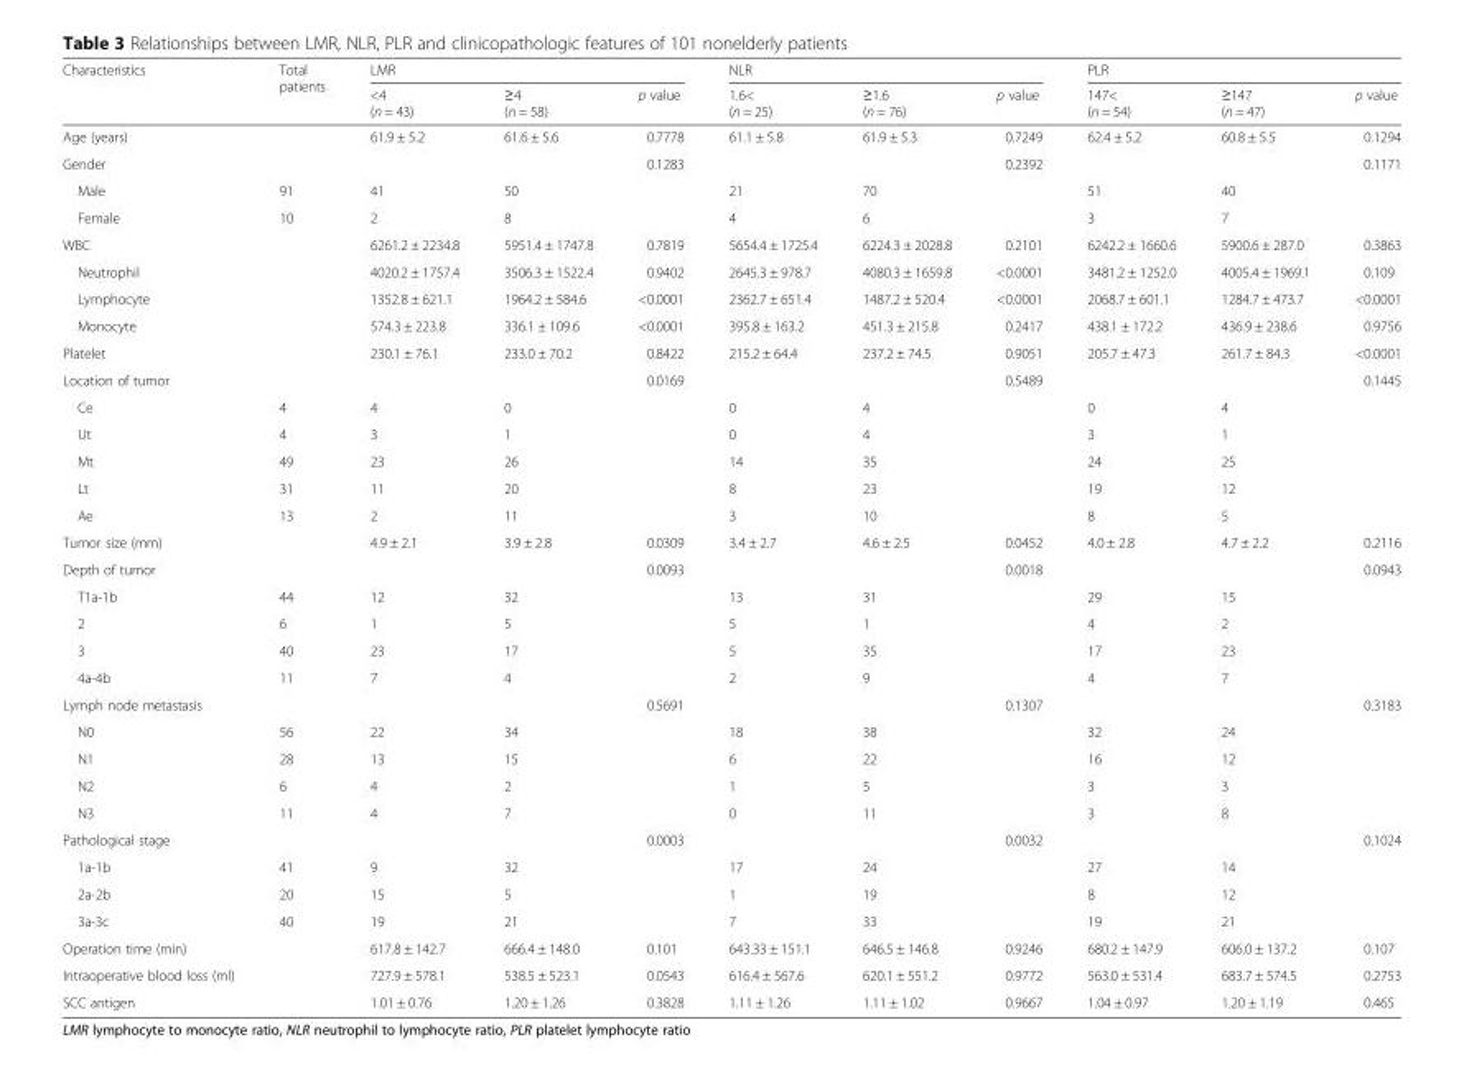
<table><thead><tr><td rowspan="2">Characteristics</td><td rowspan="2">Total patients</td><td colspan="3">LMR</td><td colspan="3">NLR</td><td colspan="3">PLR</td></tr><tr><td>&lt;4 (n = 43)</td><td>≥4 (n = 58)</td><td>p value</td><td>1.6&lt; (n = 25)</td><td>≥1.6 (n = 76)</td><td>p value</td><td>147&lt; (n = 54)</td><td>≥147 (n = 47)</td><td>p value</td></tr></thead><tbody><tr><td>Age (years)</td><td></td><td>61.9 ± 5.2</td><td>61.6 ± 5.6</td><td>0.7778</td><td>61.1 ± 5.8</td><td>61.9 ± 5.3</td><td>0.7249</td><td>62.4 ± 5.2</td><td>60.8 ± 5.5</td><td>0.1294</td></tr><tr><td>Gender</td><td></td><td></td><td></td><td>0.1283</td><td></td><td></td><td>0.2392</td><td></td><td></td><td>0.1171</td></tr><tr><td>Male</td><td>91</td><td>41</td><td>50</td><td></td><td>21</td><td>70</td><td></td><td>51</td><td>40</td><td></td></tr><tr><td>Female</td><td>10</td><td>2</td><td>8</td><td></td><td>4</td><td>6</td><td></td><td>3</td><td>7</td><td></td></tr><tr><td>WBC</td><td></td><td>6261.2 ± 2234.8</td><td>5951.4 ± 1747.8</td><td>0.7819</td><td>5654.4 ± 1725.4</td><td>6224.3 ± 2028.8</td><td>0.2101</td><td>6242.2 ± 1660.6</td><td>5900.6 ± 287.0</td><td>0.3863</td></tr><tr><td>Neutrophil</td><td></td><td>4020.2 ± 1757.4</td><td>3506.3 ± 1522.4</td><td>0.9402</td><td>2645.3 ± 978.7</td><td>4080.3 ± 1659.8</td><td>&lt;0.0001</td><td>3481.2 ± 1252.0</td><td>4005.4 ± 1969.1</td><td>0.109</td></tr><tr><td>Lymphocyte</td><td></td><td>1352.8 ± 621.1</td><td>1964.2 ± 584.6</td><td>&lt;0.0001</td><td>2362.7 ± 651.4</td><td>1487.2 ± 520.4</td><td>&lt;0.0001</td><td>2068.7 ± 601.1</td><td>1284.7 ± 473.7</td><td>&lt;0.0001</td></tr><tr><td>Monocyte</td><td></td><td>574.3 ± 223.8</td><td>336.1 ± 109.6</td><td>&lt;0.0001</td><td>395.8 ± 163.2</td><td>451.3 ± 215.8</td><td>0.2417</td><td>438.1 ± 172.2</td><td>436.9 ± 238.6</td><td>0.9756</td></tr><tr><td>Platelet</td><td></td><td>230.1 ± 76.1</td><td>233.0 ± 70.2</td><td>0.8422</td><td>215.2 ± 64.4</td><td>237.2 ± 74.5</td><td>0.9051</td><td>205.7 ± 47.3</td><td>261.7 ± 84.3</td><td>&lt;0.0001</td></tr><tr><td>Location of tumor</td><td></td><td></td><td></td><td>0.0169</td><td></td><td></td><td>0.5489</td><td></td><td></td><td>0.1445</td></tr><tr><td>Ce</td><td>4</td><td>4</td><td>0</td><td></td><td>0</td><td>4</td><td></td><td>0</td><td>4</td><td></td></tr><tr><td>Ut</td><td>4</td><td>3</td><td>1</td><td></td><td>0</td><td>4</td><td></td><td>3</td><td>1</td><td></td></tr><tr><td>Mt</td><td>49</td><td>23</td><td>26</td><td></td><td>14</td><td>35</td><td></td><td>24</td><td>25</td><td></td></tr><tr><td>Lt</td><td>31</td><td>11</td><td>20</td><td></td><td>8</td><td>23</td><td></td><td>19</td><td>12</td><td></td></tr><tr><td>Ae</td><td>13</td><td>2</td><td>11</td><td></td><td>3</td><td>10</td><td></td><td>8</td><td>5</td><td></td></tr><tr><td>Tumor size (mm)</td><td></td><td>4.9 ± 2.1</td><td>3.9 ± 2.8</td><td>0.0309</td><td>3.4 ± 2.7</td><td>4.6 ± 2.5</td><td>0.0452</td><td>4.0 ± 2.8</td><td>4.7 ± 2.2</td><td>0.2116</td></tr><tr><td>Depth of tumor</td><td></td><td></td><td></td><td>0.0093</td><td></td><td></td><td>0.0018</td><td></td><td></td><td>0.0943</td></tr><tr><td>T1a-1b</td><td>44</td><td>12</td><td>32</td><td></td><td>13</td><td>31</td><td></td><td>29</td><td>15</td><td></td></tr><tr><td>2</td><td>6</td><td>1</td><td>5</td><td></td><td>5</td><td>1</td><td></td><td>4</td><td>2</td><td></td></tr><tr><td>3</td><td>40</td><td>23</td><td>17</td><td></td><td>5</td><td>35</td><td></td><td>17</td><td>23</td><td></td></tr><tr><td>4a-4b</td><td>11</td><td>7</td><td>4</td><td></td><td>2</td><td>9</td><td></td><td>4</td><td>7</td><td></td></tr><tr><td>Lymph node metastasis</td><td></td><td></td><td></td><td>0.5691</td><td></td><td></td><td>0.1307</td><td></td><td></td><td>0.3183</td></tr><tr><td>N0</td><td>56</td><td>22</td><td>34</td><td></td><td>18</td><td>38</td><td></td><td>32</td><td>24</td><td></td></tr><tr><td>N1</td><td>28</td><td>13</td><td>15</td><td></td><td>6</td><td>22</td><td></td><td>16</td><td>12</td><td></td></tr><tr><td>N2</td><td>6</td><td>4</td><td>2</td><td></td><td>1</td><td>5</td><td></td><td>3</td><td>3</td><td></td></tr><tr><td>N3</td><td>11</td><td>4</td><td>7</td><td></td><td>0</td><td>11</td><td></td><td>3</td><td>8</td><td></td></tr><tr><td>Pathological stage</td><td></td><td></td><td></td><td>0.0003</td><td></td><td></td><td>0.0032</td><td></td><td></td><td>0.1024</td></tr><tr><td>1a-1b</td><td>41</td><td>9</td><td>32</td><td></td><td>17</td><td>24</td><td></td><td>27</td><td>14</td><td></td></tr><tr><td>2a-2b</td><td>20</td><td>15</td><td>5</td><td></td><td>1</td><td>19</td><td></td><td>8</td><td>12</td><td></td></tr><tr><td>3a-3c</td><td>40</td><td>19</td><td>21</td><td></td><td>7</td><td>33</td><td></td><td>19</td><td>21</td><td></td></tr><tr><td>Operation time (min)</td><td></td><td>617.8 ± 142.7</td><td>666.4 ± 148.0</td><td>0.101</td><td>643.33 ± 151.1</td><td>646.5 ± 146.8</td><td>0.9246</td><td>680.2 ± 147.9</td><td>606.0 ± 137.2</td><td>0.107</td></tr><tr><td>Intraoperative blood loss (ml)</td><td></td><td>727.9 ± 578.1</td><td>538.5 ± 523.1</td><td>0.0543</td><td>616.4 ± 567.6</td><td>620.1 ± 551.2</td><td>0.9772</td><td>563.0 ± 531.4</td><td>683.7 ± 574.5</td><td>0.2753</td></tr><tr><td>SCC antigen</td><td></td><td>1.01 ± 0.76</td><td>1.20 ± 1.26</td><td>0.3828</td><td>1.11 ± 1.26</td><td>1.11 ± 1.02</td><td>0.9667</td><td>1.04 ± 0.97</td><td>1.20 ± 1.19</td><td>0.465</td></tr></tbody></table>